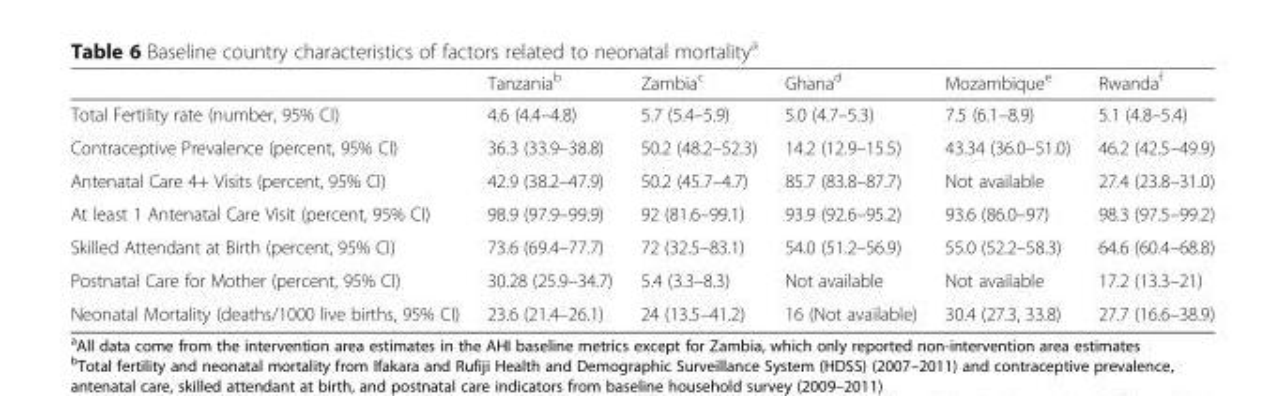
<table><thead><tr><td></td><td>Tanzania<sup>b</sup></td><td>Zambia<sup>c</sup></td><td>Ghana<sup>d</sup></td><td>Mozambique<sup>e</sup></td><td>Rwanda<sup>f</sup></td></tr></thead><tbody><tr><td>Total Fertility rate (number, 95% CI)</td><td>4.6 (4.4–4.8)</td><td>5.7 (5.4–5.9)</td><td>5.0 (4.7–5.3)</td><td>7.5 (6.1–8.9)</td><td>5.1 (4.8–5.4)</td></tr><tr><td>Contraceptive Prevalence (percent, 95% CI)</td><td>36.3 (33.9–38.8)</td><td>50.2 (48.2–52.3)</td><td>14.2 (12.9–15.5)</td><td>43.34 (36.0–51.0)</td><td>46.2 (42.5–49.9)</td></tr><tr><td>Antenatal Care 4+ Visits (percent, 95% CI)</td><td>42.9 (38.2–47.9)</td><td>50.2 (45.7–4.7)</td><td>85.7 (83.8–87.7)</td><td>Not available</td><td>27.4 (23.8–31.0)</td></tr><tr><td>At least 1 Antenatal Care Visit (percent, 95% CI)</td><td>98.9 (97.9–99.9)</td><td>92 (81.6–99.1)</td><td>93.9 (92.6–95.2)</td><td>93.6 (86.0–97)</td><td>98.3 (97.5–99.2)</td></tr><tr><td>Skilled Attendant at Birth (percent, 95% CI)</td><td>73.6 (69.4–77.7)</td><td>72 (32.5–83.1)</td><td>54.0 (51.2–56.9)</td><td>55.0 (52.2–58.3)</td><td>64.6 (60.4–68.8)</td></tr><tr><td>Postnatal Care for Mother (percent, 95% CI)</td><td>30.28 (25.9–34.7)</td><td>5.4 (3.3–8.3)</td><td>Not available</td><td>Not available</td><td>17.2 (13.3–21)</td></tr><tr><td>Neonatal Mortality (deaths/1000 live births, 95% CI)</td><td>23.6 (21.4–26.1)</td><td>24 (13.5–41.2)</td><td>16 (Not available)</td><td>30.4 (27.3, 33.8)</td><td>27.7 (16.6–38.9)</td></tr></tbody></table>